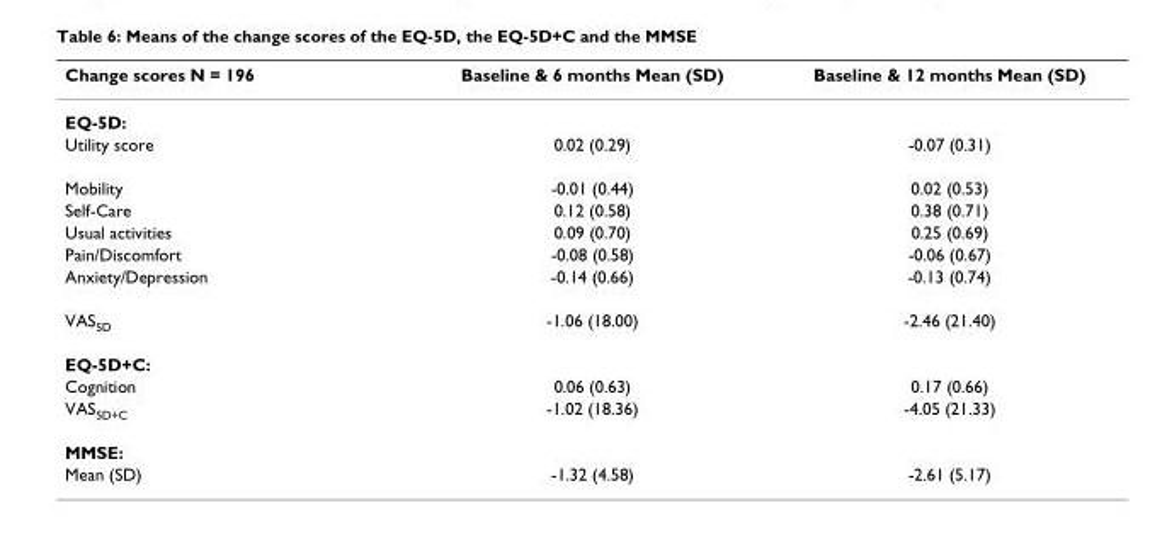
<table><thead><tr><td>Change scores N = 196</td><td>Baseline &amp; 6 months Mean (SD)</td><td>Baseline &amp; 12 months Mean (SD)</td></tr></thead><tbody><tr><td colspan="3">EQ-5D:</td></tr><tr><td>Utility score</td><td>0.02 (0.29)</td><td>-0.07 (0.31)</td></tr><tr><td>Mobility</td><td>-0.01 (0.44)</td><td>0.02 (0.53)</td></tr><tr><td>Self-Care</td><td>0.12 (0.58)</td><td>0.38 (0.71)</td></tr><tr><td>Usual activities</td><td>0.09 (0.70)</td><td>0.25 (0.69)</td></tr><tr><td>Pain/Discomfort</td><td>-0.08 (0.58)</td><td>-0.06 (0.67)</td></tr><tr><td>Anxiety/Depression</td><td>-0.14 (0.66)</td><td>-0.13 (0.74)</td></tr><tr><td>VAS<sub>5D</sub></td><td>-1.06 (18.00)</td><td>-2.46 (21.40)</td></tr><tr><td colspan="3">EQ-5D+C:</td></tr><tr><td>Cognition</td><td>0.06 (0.63)</td><td>0.17 (0.66)</td></tr><tr><td>VAS<sub>5D+C</sub></td><td>-1.02 (18.36)</td><td>-4.05 (21.33)</td></tr><tr><td colspan="3">MMSE:</td></tr><tr><td>Mean (SD)</td><td>-1.32 (4.58)</td><td>-2.61 (5.17)</td></tr></tbody></table>